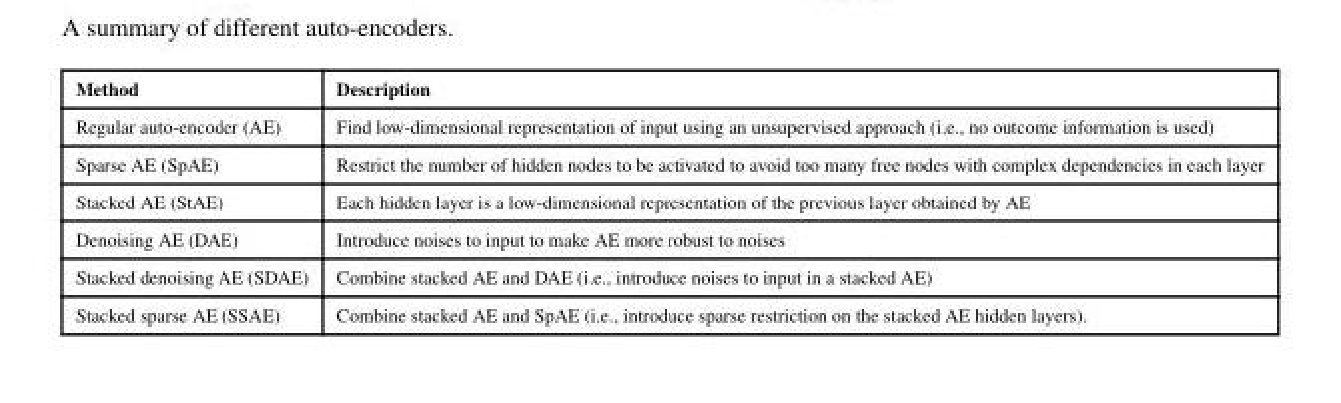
<table><thead><tr><td>Method</td><td>Description</td></tr></thead><tbody><tr><td>Regular auto-encoder (AE)</td><td>Find low-dimensional representation of input using an unsupervised approach (i.e., no outcome information is used)</td></tr><tr><td>Sparse AE (SpAE)</td><td>Restrict the number of hidden nodes to be activated to avoid too many free nodes with complex dependencies in each layer</td></tr><tr><td>Stacked AE (StAE)</td><td>Each hidden layer is a low-dimensional representation of the previous layer obtained by AE</td></tr><tr><td>Denoising AE (DAE)</td><td>Introduce noises to input to make AE more robust to noises</td></tr><tr><td>Stacked denoising AE (SDAE)</td><td>Combine stacked AE and DAE (i.e., introduce noises to input in a stacked AE)</td></tr><tr><td>Stacked sparse AE (SSAE)</td><td>Combine stacked AE and SpAE (i.e., introduce sparse restriction on the stacked AE hidden layers).</td></tr></tbody></table>